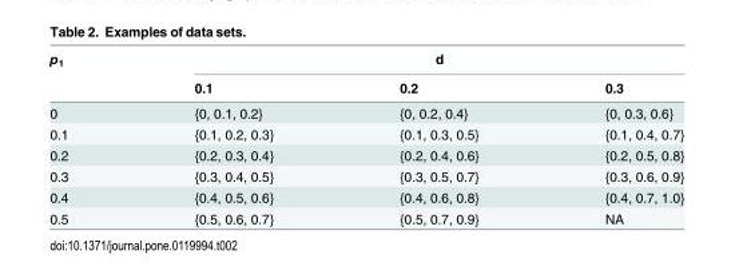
<table><thead><tr><td rowspan="2">p<sub>1</sub></td><td colspan="3">d</td></tr><tr><td>0.1</td><td>0.2</td><td>0.3</td></tr></thead><tbody><tr><td>0</td><td>{0, 0.1, 0.2}</td><td>{0, 0.2, 0.4}</td><td>{0, 0.3, 0.6}</td></tr><tr><td>0.1</td><td>{0.1, 0.2, 0.3}</td><td>{0.1, 0.3, 0.5}</td><td>{0.1, 0.4, 0.7}</td></tr><tr><td>0.2</td><td>{0.2, 0.3, 0.4}</td><td>{0.2, 0.4, 0.6}</td><td>{0.2, 0.5, 0.8}</td></tr><tr><td>0.3</td><td>{0.3, 0.4, 0.5}</td><td>{0.3, 0.5, 0.7}</td><td>{0.3, 0.6, 0.9}</td></tr><tr><td>0.4</td><td>{0.4, 0.5, 0.6}</td><td>{0.4, 0.6, 0.8}</td><td>{0.4, 0.7, 1.0}</td></tr><tr><td>0.5</td><td>{0.5, 0.6, 0.7}</td><td>{0.5, 0.7, 0.9}</td><td>NA</td></tr></tbody></table>